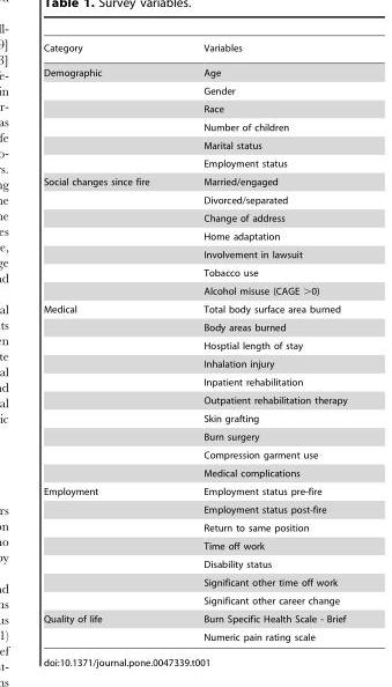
<table><thead><tr><td>Category</td><td>Variables</td></tr></thead><tbody><tr><td rowspan="6">Demographic</td><td>Age</td></tr><tr><td>Gender</td></tr><tr><td>Race</td></tr><tr><td>Number of children</td></tr><tr><td>Marital status</td></tr><tr><td>Employment status</td></tr><tr><td rowspan="7">Social changes since fire</td><td>Married/engaged</td></tr><tr><td>Divorced/separated</td></tr><tr><td>Change of address</td></tr><tr><td>Home adaptation</td></tr><tr><td>Involvement in lawsuit</td></tr><tr><td>Tobacco use</td></tr><tr><td>Alcohol misuse (CAGE &gt;0)</td></tr><tr><td rowspan="10">Medical</td><td>Total body surface area burned</td></tr><tr><td>Body areas burned</td></tr><tr><td>Hosptial length of stay</td></tr><tr><td>Inhalation injury</td></tr><tr><td>Inpatient rehabilitation</td></tr><tr><td>Outpatient rehabilitation therapy</td></tr><tr><td>Skin grafting</td></tr><tr><td>Burn surgery</td></tr><tr><td>Compression garment use</td></tr><tr><td>Medical complications</td></tr><tr><td rowspan="7">Employment</td><td>Employment status pre-fire</td></tr><tr><td>Employment status post-fire</td></tr><tr><td>Return to same position</td></tr><tr><td>Time off work</td></tr><tr><td>Disability status</td></tr><tr><td>Significant other time off work</td></tr><tr><td>Significant other career change</td></tr><tr><td rowspan="2">Quality of life</td><td>Burn Specific Health Scale - Brief</td></tr><tr><td>Numeric pain rating scale</td></tr></tbody></table>